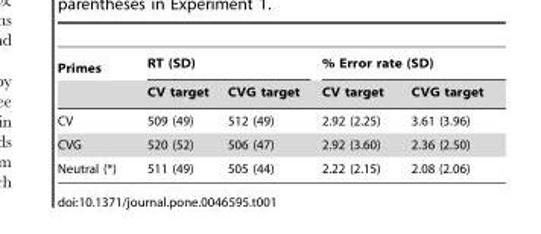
<table><thead><tr><td rowspan="2">Primes</td><td colspan="2">RT (SD)</td><td colspan="2">% Error rate (SD)</td></tr><tr><td>CV target</td><td>CVG target</td><td>CV target</td><td>CVG target</td></tr></thead><tbody><tr><td>CV</td><td>509 (49)</td><td>512 (49)</td><td>2.92 (2.25)</td><td>3.61 (3.96)</td></tr><tr><td>CVG</td><td>520 (52)</td><td>506 (47)</td><td>2.92 (3.60)</td><td>2.36 (2.50)</td></tr><tr><td>Neutral (*)</td><td>511 (49)</td><td>505 (44)</td><td>2.22 (2.15)</td><td>2.08 (2.06)</td></tr></tbody></table>